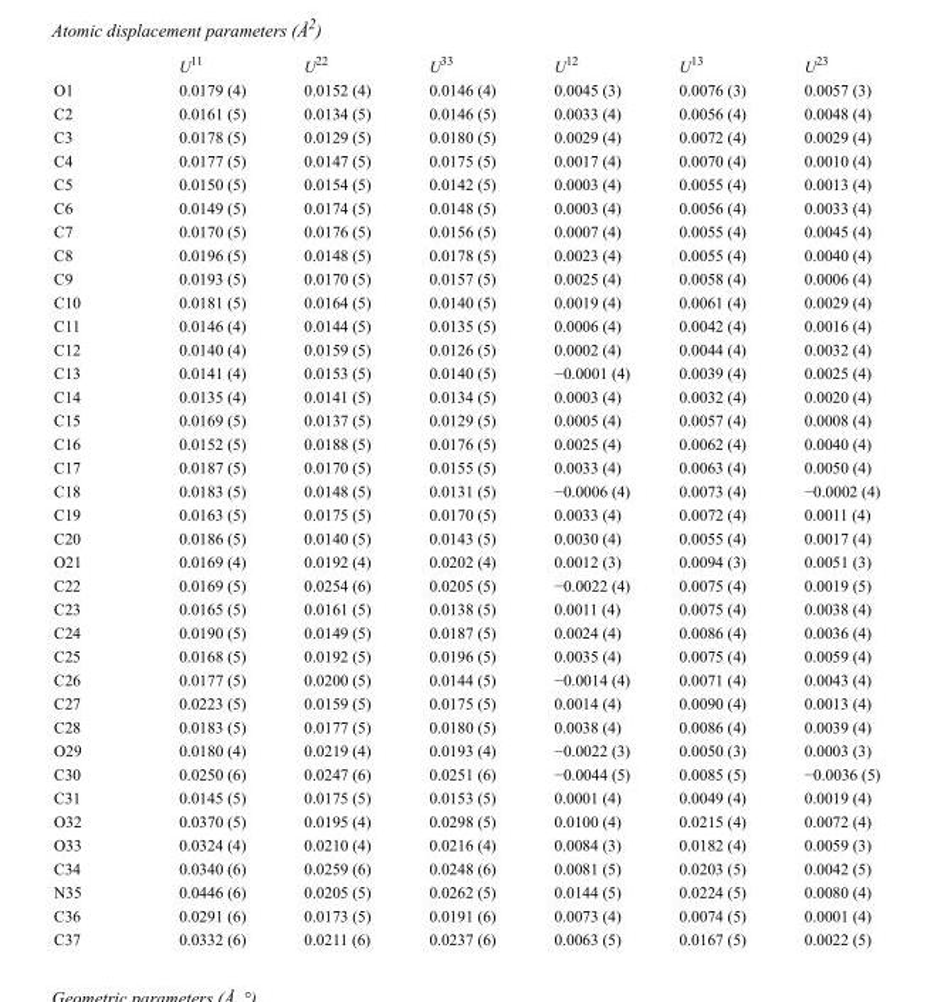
<table><thead><tr><td></td><td>U<sup>11</sup></td><td>U<sup>22</sup></td><td>U<sup>33</sup></td><td>U<sup>12</sup></td><td>U<sup>13</sup></td><td>U<sup>23</sup></td></tr></thead><tbody><tr><td>O1</td><td>0.0179 (4)</td><td>0.0152 (4)</td><td>0.0146 (4)</td><td>0.0045 (3)</td><td>0.0076 (3)</td><td>0.0057 (3)</td></tr><tr><td>C2</td><td>0.0161 (5)</td><td>0.0134 (5)</td><td>0.0146 (5)</td><td>0.0033 (4)</td><td>0.0056 (4)</td><td>0.0048 (4)</td></tr><tr><td>C3</td><td>0.0178 (5)</td><td>0.0129 (5)</td><td>0.0180 (5)</td><td>0.0029 (4)</td><td>0.0072 (4)</td><td>0.0029 (4)</td></tr><tr><td>C4</td><td>0.0177 (5)</td><td>0.0147 (5)</td><td>0.0175 (5)</td><td>0.0017 (4)</td><td>0.0070 (4)</td><td>0.0010 (4)</td></tr><tr><td>C5</td><td>0.0150 (5)</td><td>0.0154 (5)</td><td>0.0142 (5)</td><td>0.0003 (4)</td><td>0.0055 (4)</td><td>0.0013 (4)</td></tr><tr><td>C6</td><td>0.0149 (5)</td><td>0.0174 (5)</td><td>0.0148 (5)</td><td>0.0003 (4)</td><td>0.0056 (4)</td><td>0.0033 (4)</td></tr><tr><td>C7</td><td>0.0170 (5)</td><td>0.0176 (5)</td><td>0.0156 (5)</td><td>0.0007 (4)</td><td>0.0055 (4)</td><td>0.0045 (4)</td></tr><tr><td>C8</td><td>0.0196 (5)</td><td>0.0148 (5)</td><td>0.0178 (5)</td><td>0.0023 (4)</td><td>0.0055 (4)</td><td>0.0040 (4)</td></tr><tr><td>C9</td><td>0.0193 (5)</td><td>0.0170 (5)</td><td>0.0157 (5)</td><td>0.0025 (4)</td><td>0.0058 (4)</td><td>0.0006 (4)</td></tr><tr><td>C10</td><td>0.0181 (5)</td><td>0.0164 (5)</td><td>0.0140 (5)</td><td>0.0019 (4)</td><td>0.0061 (4)</td><td>0.0029 (4)</td></tr><tr><td>C11</td><td>0.0146 (4)</td><td>0.0144 (5)</td><td>0.0135 (5)</td><td>0.0006 (4)</td><td>0.0042 (4)</td><td>0.0016 (4)</td></tr><tr><td>C12</td><td>0.0140 (4)</td><td>0.0159 (5)</td><td>0.0126 (5)</td><td>0.0002 (4)</td><td>0.0044 (4)</td><td>0.0032 (4)</td></tr><tr><td>C13</td><td>0.0141 (4)</td><td>0.0153 (5)</td><td>0.0140 (5)</td><td>−0.0001 (4)</td><td>0.0039 (4)</td><td>0.0025 (4)</td></tr><tr><td>C14</td><td>0.0135 (4)</td><td>0.0141 (5)</td><td>0.0134 (5)</td><td>0.0003 (4)</td><td>0.0032 (4)</td><td>0.0020 (4)</td></tr><tr><td>C15</td><td>0.0169 (5)</td><td>0.0137 (5)</td><td>0.0129 (5)</td><td>0.0005 (4)</td><td>0.0057 (4)</td><td>0.0008 (4)</td></tr><tr><td>C16</td><td>0.0152 (5)</td><td>0.0188 (5)</td><td>0.0176 (5)</td><td>0.0025 (4)</td><td>0.0062 (4)</td><td>0.0040 (4)</td></tr><tr><td>C17</td><td>0.0187 (5)</td><td>0.0170 (5)</td><td>0.0155 (5)</td><td>0.0033 (4)</td><td>0.0063 (4)</td><td>0.0050 (4)</td></tr><tr><td>C18</td><td>0.0183 (5)</td><td>0.0148 (5)</td><td>0.0131 (5)</td><td>−0.0006 (4)</td><td>0.0073 (4)</td><td>−0.0002 (4)</td></tr><tr><td>C19</td><td>0.0163 (5)</td><td>0.0175 (5)</td><td>0.0170 (5)</td><td>0.0033 (4)</td><td>0.0072 (4)</td><td>0.0011 (4)</td></tr><tr><td>C20</td><td>0.0186 (5)</td><td>0.0140 (5)</td><td>0.0143 (5)</td><td>0.0030 (4)</td><td>0.0055 (4)</td><td>0.0017 (4)</td></tr><tr><td>O21</td><td>0.0169 (4)</td><td>0.0192 (4)</td><td>0.0202 (4)</td><td>0.0012 (3)</td><td>0.0094 (3)</td><td>0.0051 (3)</td></tr><tr><td>C22</td><td>0.0169 (5)</td><td>0.0254 (6)</td><td>0.0205 (5)</td><td>−0.0022 (4)</td><td>0.0075 (4)</td><td>0.0019 (5)</td></tr><tr><td>C23</td><td>0.0165 (5)</td><td>0.0161 (5)</td><td>0.0138 (5)</td><td>0.0011 (4)</td><td>0.0075 (4)</td><td>0.0038 (4)</td></tr><tr><td>C24</td><td>0.0190 (5)</td><td>0.0149 (5)</td><td>0.0187 (5)</td><td>0.0024 (4)</td><td>0.0086 (4)</td><td>0.0036 (4)</td></tr><tr><td>C25</td><td>0.0168 (5)</td><td>0.0192 (5)</td><td>0.0196 (5)</td><td>0.0035 (4)</td><td>0.0075 (4)</td><td>0.0059 (4)</td></tr><tr><td>C26</td><td>0.0177 (5)</td><td>0.0200 (5)</td><td>0.0144 (5)</td><td>−0.0014 (4)</td><td>0.0071 (4)</td><td>0.0043 (4)</td></tr><tr><td>C27</td><td>0.0223 (5)</td><td>0.0159 (5)</td><td>0.0175 (5)</td><td>0.0014 (4)</td><td>0.0090 (4)</td><td>0.0013 (4)</td></tr><tr><td>C28</td><td>0.0183 (5)</td><td>0.0177 (5)</td><td>0.0180 (5)</td><td>0.0038 (4)</td><td>0.0086 (4)</td><td>0.0039 (4)</td></tr><tr><td>O29</td><td>0.0180 (4)</td><td>0.0219 (4)</td><td>0.0193 (4)</td><td>−0.0022 (3)</td><td>0.0050 (3)</td><td>0.0003 (3)</td></tr><tr><td>C30</td><td>0.0250 (6)</td><td>0.0247 (6)</td><td>0.0251 (6)</td><td>−0.0044 (5)</td><td>0.0085 (5)</td><td>−0.0036 (5)</td></tr><tr><td>C31</td><td>0.0145 (5)</td><td>0.0175 (5)</td><td>0.0153 (5)</td><td>0.0001 (4)</td><td>0.0049 (4)</td><td>0.0019 (4)</td></tr><tr><td>O32</td><td>0.0370 (5)</td><td>0.0195 (4)</td><td>0.0298 (5)</td><td>0.0100 (4)</td><td>0.0215 (4)</td><td>0.0072 (4)</td></tr><tr><td>O33</td><td>0.0324 (4)</td><td>0.0210 (4)</td><td>0.0216 (4)</td><td>0.0084 (3)</td><td>0.0182 (4)</td><td>0.0059 (3)</td></tr><tr><td>C34</td><td>0.0340 (6)</td><td>0.0259 (6)</td><td>0.0248 (6)</td><td>0.0081 (5)</td><td>0.0203 (5)</td><td>0.0042 (5)</td></tr><tr><td>N35</td><td>0.0446 (6)</td><td>0.0205 (5)</td><td>0.0262 (5)</td><td>0.0144 (5)</td><td>0.0224 (5)</td><td>0.0080 (4)</td></tr><tr><td>C36</td><td>0.0291 (6)</td><td>0.0173 (5)</td><td>0.0191 (6)</td><td>0.0073 (4)</td><td>0.0074 (5)</td><td>0.0001 (4)</td></tr><tr><td>C37</td><td>0.0332 (6)</td><td>0.0211 (6)</td><td>0.0237 (6)</td><td>0.0063 (5)</td><td>0.0167 (5)</td><td>0.0022 (5)</td></tr></tbody></table>